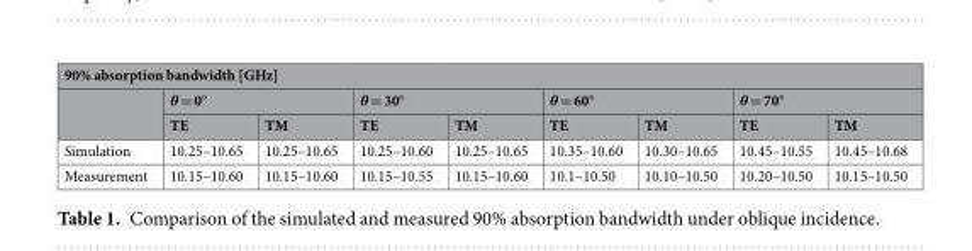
<table><thead><tr><td colspan="9">90% absorption bandwidth [GHz]</td></tr><tr><td rowspan="2"></td><td colspan="2">θ = 0°</td><td colspan="2">θ = 30°</td><td colspan="2">θ = 60°</td><td colspan="2">θ = 70°</td></tr><tr><td>TE</td><td>TM</td><td>TE</td><td>TM</td><td>TE</td><td>TM</td><td>TE</td><td>TM</td></tr></thead><tbody><tr><td>Simulation</td><td>10.25–10.65</td><td>10.25–10.65</td><td>10.25–10.60</td><td>10.25–10.65</td><td>10.35–10.60</td><td>10.30–10.65</td><td>10.45–10.55</td><td>10.45–10.68</td></tr><tr><td>Measurement</td><td>10.15–10.60</td><td>10.15–10.60</td><td>10.15–10.55</td><td>10.15–10.60</td><td>10.1–10.50</td><td>10.10–10.50</td><td>10.20–10.50</td><td>10.15–10.50</td></tr></tbody></table>